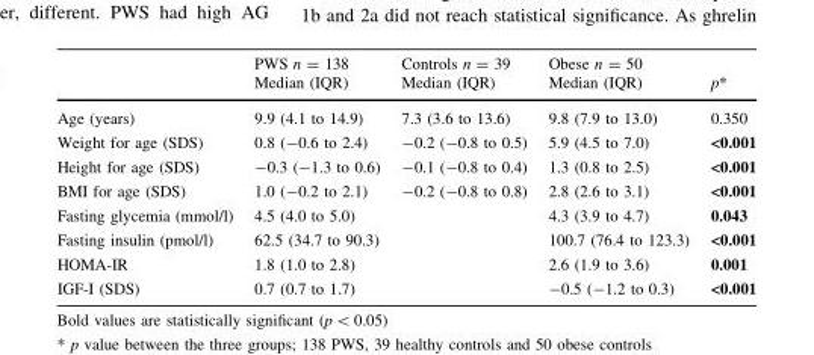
<table><thead><tr><td rowspan="2"></td><td rowspan="2">PWS n = 138 Median (IQR)</td><td rowspan="2">Controls n = 39 Median (IQR)</td><td rowspan="2">Obese n = 50 Median (IQR)</td><td rowspan="2">p*</td></tr><tr></tr></thead><tbody><tr><td>Age (years)</td><td>9.9 (4.1 to 14.9)</td><td>7.3 (3.6 to 13.6)</td><td>9.8 (7.9 to 13.0)</td><td>0.350</td></tr><tr><td>Weight for age (SDS)</td><td>0.8 (-0.6 to 2.4)</td><td>-0.2 (-0.8 to 0.5)</td><td>5.9 (4.5 to 7.0)</td><td>&lt;0.001</td></tr><tr><td>Height for age (SDS)</td><td>-0.3 (-1.3 to 0.6)</td><td>-0.1 (-0.8 to 0.4)</td><td>1.3 (0.8 to 2.5)</td><td>&lt;0.001</td></tr><tr><td>BMI for age (SDS)</td><td>1.0 (-0.2 to 2.1)</td><td>-0.2 (-0.8 to 0.8)</td><td>2.8 (2.6 to 3.1)</td><td>&lt;0.001</td></tr><tr><td>Fasting glycemia (mmol/l)</td><td>4.5 (4.0 to 5.0)</td><td></td><td>4.3 (3.9 to 4.7)</td><td>0.043</td></tr><tr><td>Fasting insulin (pmol/l)</td><td>62.5 (34.7 to 90.3)</td><td></td><td>100.7 (76.4 to 123.3)</td><td>&lt;0.001</td></tr><tr><td>HOMA-IR</td><td>1.8 (1.0 to 2.8)</td><td></td><td>2.6 (1.9 to 3.6)</td><td>0.001</td></tr><tr><td>IGF-I (SDS)</td><td>0.7 (0.7 to 1.7)</td><td></td><td>-0.5 (-1.2 to 0.3)</td><td>&lt;0.001</td></tr></tbody></table>